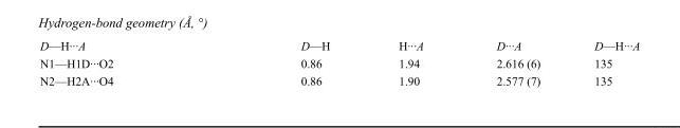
<table><tbody><tr><td>D—H···A</td><td>D—H</td><td>H···A</td><td>D···A</td><td>D—H···A</td></tr><tr><td>N1—H1D···O2</td><td>0.86</td><td>1.94</td><td>2.616 (6)</td><td>135</td></tr><tr><td>N2—H2A···O4</td><td>0.86</td><td>1.90</td><td>2.577 (7)</td><td>135</td></tr></tbody></table>